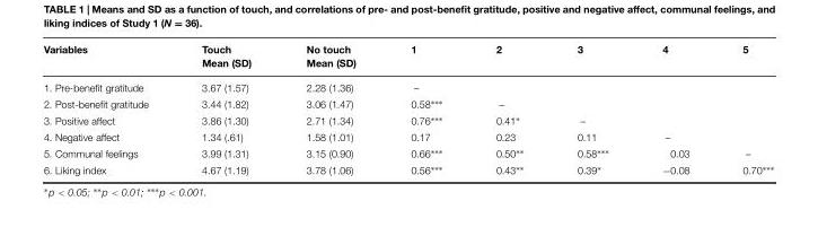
<table><thead><tr><td>Variables</td><td>Touch Mean (SD)</td><td>No touch Mean (SD)</td><td>1</td><td>2</td><td>3</td><td>4</td><td>5</td></tr></thead><tbody><tr><td>1. Pre-benefit gratitude</td><td>3.67 (1.57)</td><td>2.28 (1.36)</td><td>–</td><td></td><td></td><td></td><td></td></tr><tr><td>2. Post-benefit gratitude</td><td>3.44 (1.82)</td><td>3.06 (1.47)</td><td>0.58∗∗∗</td><td>–</td><td></td><td></td><td></td></tr><tr><td>3. Positive affect</td><td>3.86 (1.30)</td><td>2.71 (1.34)</td><td>0.76∗∗∗</td><td>0.41∗</td><td>–</td><td></td><td></td></tr><tr><td>4. Negative affect</td><td>1.34 (.61)</td><td>1.58 (1.01)</td><td>0.17</td><td>0.23</td><td>0.11</td><td>–</td><td></td></tr><tr><td>5. Communal feelings</td><td>3.99 (1.31)</td><td>3.15 (0.90)</td><td>0.66∗∗∗</td><td>0.50∗∗</td><td>0.58∗∗∗</td><td>0.03</td><td>–</td></tr><tr><td>6. Liking index</td><td>4.67 (1.19)</td><td>3.78 (1.06)</td><td>0.56∗∗∗</td><td>0.43∗∗</td><td>0.39∗</td><td>−0.08</td><td>0.70∗∗∗</td></tr></tbody></table>